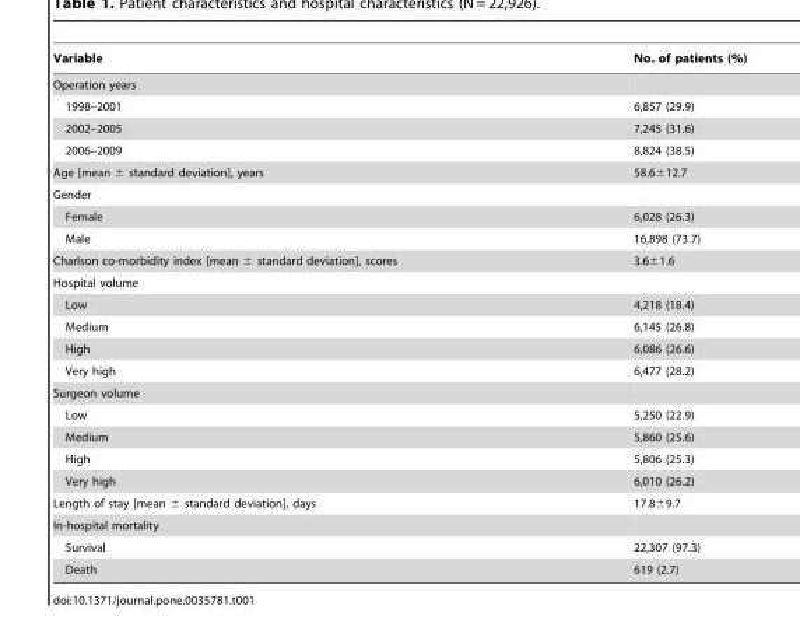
<table><thead><tr><td>Variable</td><td>No. of patients (%)</td></tr></thead><tbody><tr><td colspan="2">Operation years</td></tr><tr><td>1998–2001</td><td>6,857 (29.9)</td></tr><tr><td>2002–2005</td><td>7,245 (31.6)</td></tr><tr><td>2006–2009</td><td>8,824 (38.5)</td></tr><tr><td>Age [mean ± standard deviation], years</td><td>58.6±12.7</td></tr><tr><td colspan="2">Gender</td></tr><tr><td>Female</td><td>6,028 (26.3)</td></tr><tr><td>Male</td><td>16,898 (73.7)</td></tr><tr><td>Charlson co-morbidity index [mean ± standard deviation], scores</td><td>3.6±1.6</td></tr><tr><td colspan="2">Hospital volume</td></tr><tr><td>Low</td><td>4,218 (18.4)</td></tr><tr><td>Medium</td><td>6,145 (26.8)</td></tr><tr><td>High</td><td>6,086 (26.6)</td></tr><tr><td>Very high</td><td>6,477 (28.2)</td></tr><tr><td colspan="2">Surgeon volume</td></tr><tr><td>Low</td><td>5,250 (22.9)</td></tr><tr><td>Medium</td><td>5,860 (25.6)</td></tr><tr><td>High</td><td>5,806 (25.3)</td></tr><tr><td>Very high</td><td>6,010 (26.2)</td></tr><tr><td>Length of stay [mean ± standard deviation], days</td><td>17.8±9.7</td></tr><tr><td colspan="2">In-hospital mortality</td></tr><tr><td>Survival</td><td>22,307 (97.3)</td></tr><tr><td>Death</td><td>619 (2.7)</td></tr></tbody></table>